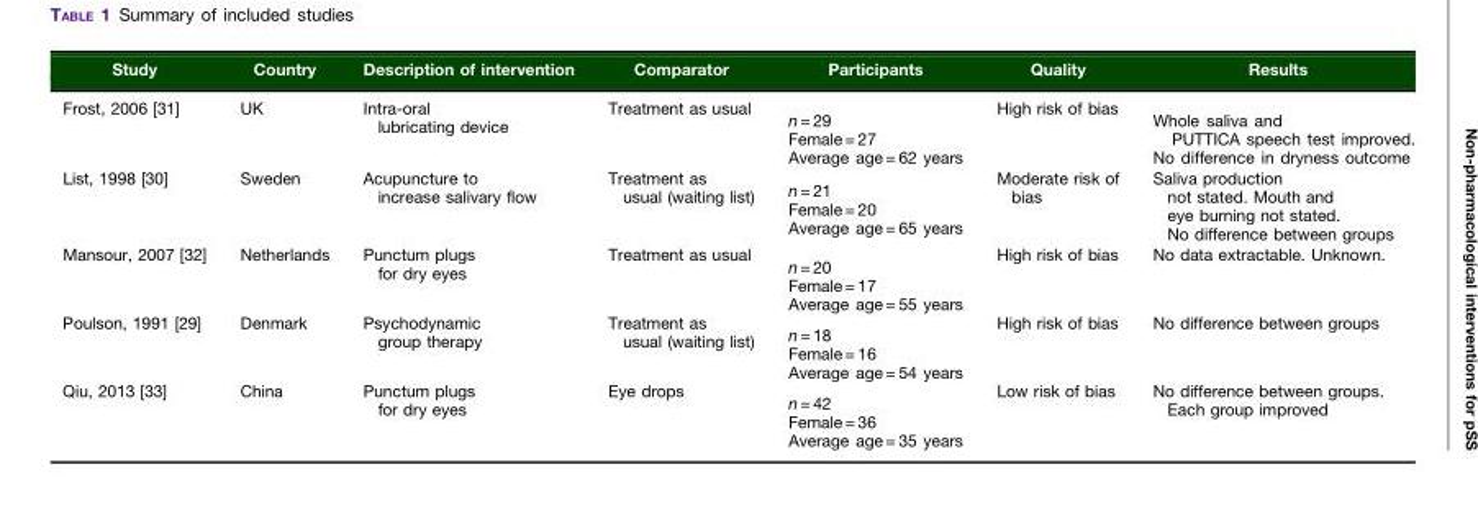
<table><thead><tr><td>Study</td><td>Country</td><td>Description of intervention</td><td>Comparator</td><td>Participants</td><td>Quality</td><td>Results</td></tr></thead><tbody><tr><td>Frost, 2006 [31]</td><td>UK</td><td>Intra-oral lubricating device</td><td>Treatment as usual</td><td>n = 29 Female = 27 Average age = 62 years</td><td>High risk of bias</td><td>Whole saliva and PUTTICA speech test improved. No difference in dryness outcome</td></tr><tr><td>List, 1998 [30]</td><td>Sweden</td><td>Acupuncture to increase salivary flow</td><td>Treatment as usual (waiting list)</td><td>n = 21 Female = 20 Average age = 65 years</td><td>Moderate risk of bias</td><td>Saliva production not stated. Mouth and eye burning not stated. No difference between groups</td></tr><tr><td>Mansour, 2007 [32]</td><td>Netherlands</td><td>Punctum plugs for dry eyes</td><td>Treatment as usual</td><td>n = 20 Female = 17 Average age = 55 years</td><td>High risk of bias</td><td>No data extractable. Unknown.</td></tr><tr><td>Poulson, 1991 [29]</td><td>Denmark</td><td>Psychodynamic group therapy</td><td>Treatment as usual (waiting list)</td><td>n = 18 Female = 16 Average age = 54 years</td><td>High risk of bias</td><td>No difference between groups</td></tr><tr><td>Qiu, 2013 [33]</td><td>China</td><td>Punctum plugs for dry eyes</td><td>Eye drops</td><td>n = 42 Female = 36 Average age = 35 years</td><td>Low risk of bias</td><td>No difference between groups. Each group improved</td></tr></tbody></table>